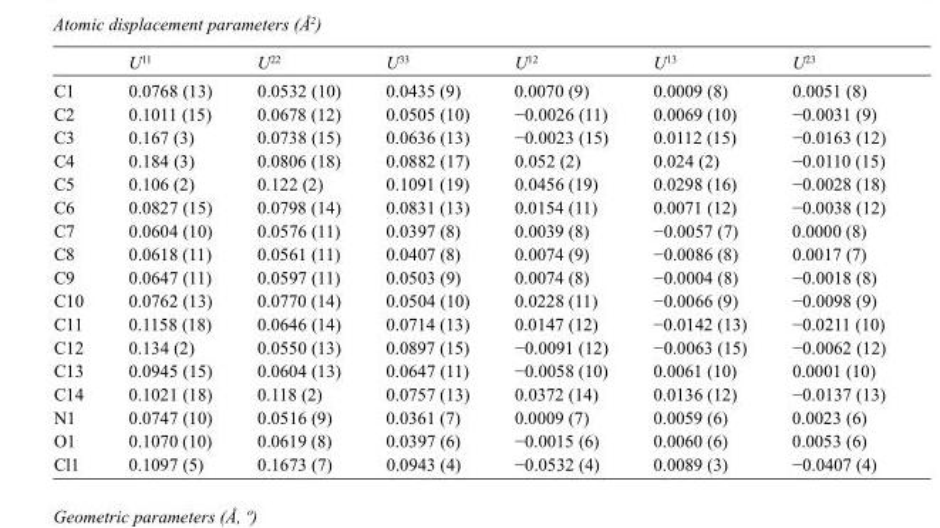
<table><thead><tr><td></td><td>U<sup>11</sup></td><td>U<sup>22</sup></td><td>U<sup>33</sup></td><td>U<sup>12</sup></td><td>U<sup>13</sup></td><td>U<sup>23</sup></td></tr></thead><tbody><tr><td>C1</td><td>0.0768 (13)</td><td>0.0532 (10)</td><td>0.0435 (9)</td><td>0.0070 (9)</td><td>0.0009 (8)</td><td>0.0051 (8)</td></tr><tr><td>C2</td><td>0.1011 (15)</td><td>0.0678 (12)</td><td>0.0505 (10)</td><td>−0.0026 (11)</td><td>0.0069 (10)</td><td>−0.0031 (9)</td></tr><tr><td>C3</td><td>0.167 (3)</td><td>0.0738 (15)</td><td>0.0636 (13)</td><td>−0.0023 (15)</td><td>0.0112 (15)</td><td>−0.0163 (12)</td></tr><tr><td>C4</td><td>0.184 (3)</td><td>0.0806 (18)</td><td>0.0882 (17)</td><td>0.052 (2)</td><td>0.024 (2)</td><td>−0.0110 (15)</td></tr><tr><td>C5</td><td>0.106 (2)</td><td>0.122 (2)</td><td>0.1091 (19)</td><td>0.0456 (19)</td><td>0.0298 (16)</td><td>−0.0028 (18)</td></tr><tr><td>C6</td><td>0.0827 (15)</td><td>0.0798 (14)</td><td>0.0831 (13)</td><td>0.0154 (11)</td><td>0.0071 (12)</td><td>−0.0038 (12)</td></tr><tr><td>C7</td><td>0.0604 (10)</td><td>0.0576 (11)</td><td>0.0397 (8)</td><td>0.0039 (8)</td><td>−0.0057 (7)</td><td>0.0000 (8)</td></tr><tr><td>C8</td><td>0.0618 (11)</td><td>0.0561 (11)</td><td>0.0407 (8)</td><td>0.0074 (9)</td><td>−0.0086 (8)</td><td>0.0017 (7)</td></tr><tr><td>C9</td><td>0.0647 (11)</td><td>0.0597 (11)</td><td>0.0503 (9)</td><td>0.0074 (8)</td><td>−0.0004 (8)</td><td>−0.0018 (8)</td></tr><tr><td>C10</td><td>0.0762 (13)</td><td>0.0770 (14)</td><td>0.0504 (10)</td><td>0.0228 (11)</td><td>−0.0066 (9)</td><td>−0.0098 (9)</td></tr><tr><td>C11</td><td>0.1158 (18)</td><td>0.0646 (14)</td><td>0.0714 (13)</td><td>0.0147 (12)</td><td>−0.0142 (13)</td><td>−0.0211 (10)</td></tr><tr><td>C12</td><td>0.134 (2)</td><td>0.0550 (13)</td><td>0.0897 (15)</td><td>−0.0091 (12)</td><td>−0.0063 (15)</td><td>−0.0062 (12)</td></tr><tr><td>C13</td><td>0.0945 (15)</td><td>0.0604 (13)</td><td>0.0647 (11)</td><td>−0.0058 (10)</td><td>0.0061 (10)</td><td>0.0001 (10)</td></tr><tr><td>C14</td><td>0.1021 (18)</td><td>0.118 (2)</td><td>0.0757 (13)</td><td>0.0372 (14)</td><td>0.0136 (12)</td><td>−0.0137 (13)</td></tr><tr><td>N1</td><td>0.0747 (10)</td><td>0.0516 (9)</td><td>0.0361 (7)</td><td>0.0009 (7)</td><td>0.0059 (6)</td><td>0.0023 (6)</td></tr><tr><td>O1</td><td>0.1070 (10)</td><td>0.0619 (8)</td><td>0.0397 (6)</td><td>−0.0015 (6)</td><td>0.0060 (6)</td><td>0.0053 (6)</td></tr><tr><td>Cl1</td><td>0.1097 (5)</td><td>0.1673 (7)</td><td>0.0943 (4)</td><td>−0.0532 (4)</td><td>0.0089 (3)</td><td>−0.0407 (4)</td></tr></tbody></table>